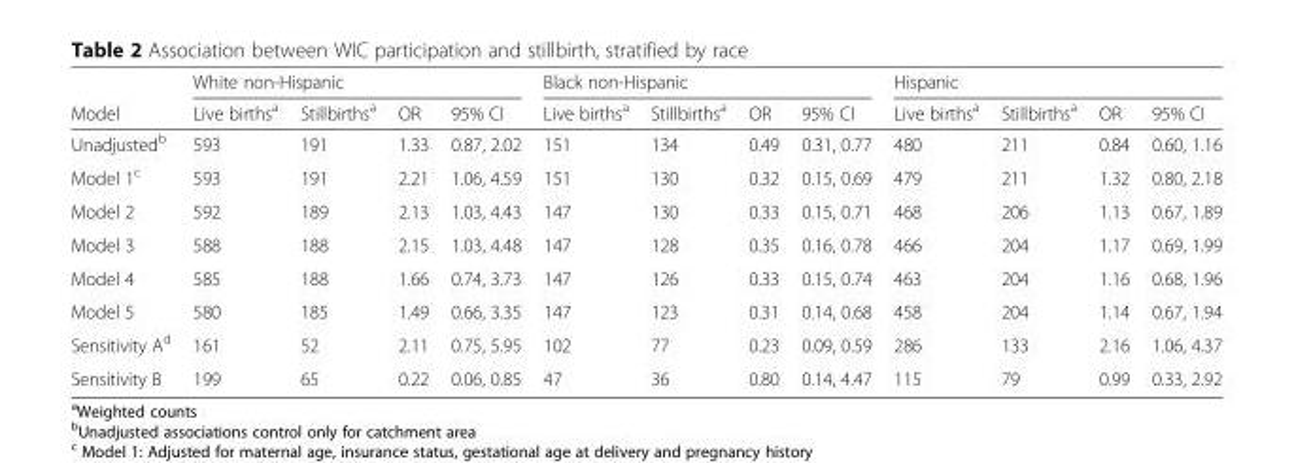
<table><thead><tr><td rowspan="2">Model</td><td colspan="4">White non-Hispanic</td><td colspan="4">Black non-Hispanic</td><td colspan="4">Hispanic</td></tr><tr><td>Live births<sup>a</sup></td><td>Stillbirths<sup>a</sup></td><td>OR</td><td>95% CI</td><td>Live births<sup>a</sup></td><td>Stillbirths<sup>a</sup></td><td>OR</td><td>95% CI</td><td>Live births<sup>a</sup></td><td>Stillbirths<sup>a</sup></td><td>OR</td><td>95% CI</td></tr></thead><tbody><tr><td>Unadjusted<sup>b</sup></td><td>593</td><td>191</td><td>1.33</td><td>0.87, 2.02</td><td>151</td><td>134</td><td>0.49</td><td>0.31, 0.77</td><td>480</td><td>211</td><td>0.84</td><td>0.60, 1.16</td></tr><tr><td>Model 1<sup>c</sup></td><td>593</td><td>191</td><td>2.21</td><td>1.06, 4.59</td><td>151</td><td>130</td><td>0.32</td><td>0.15, 0.69</td><td>479</td><td>211</td><td>1.32</td><td>0.80, 2.18</td></tr><tr><td>Model 2</td><td>592</td><td>189</td><td>2.13</td><td>1.03, 4.43</td><td>147</td><td>130</td><td>0.33</td><td>0.15, 0.71</td><td>468</td><td>206</td><td>1.13</td><td>0.67, 1.89</td></tr><tr><td>Model 3</td><td>588</td><td>188</td><td>2.15</td><td>1.03, 4.48</td><td>147</td><td>128</td><td>0.35</td><td>0.16, 0.78</td><td>466</td><td>204</td><td>1.17</td><td>0.69, 1.99</td></tr><tr><td>Model 4</td><td>585</td><td>188</td><td>1.66</td><td>0.74, 3.73</td><td>147</td><td>126</td><td>0.33</td><td>0.15, 0.74</td><td>463</td><td>204</td><td>1.16</td><td>0.68, 1.96</td></tr><tr><td>Model 5</td><td>580</td><td>185</td><td>1.49</td><td>0.66, 3.35</td><td>147</td><td>123</td><td>0.31</td><td>0.14, 0.68</td><td>458</td><td>204</td><td>1.14</td><td>0.67, 1.94</td></tr><tr><td>Sensitivity A<sup>d</sup></td><td>161</td><td>52</td><td>2.11</td><td>0.75, 5.95</td><td>102</td><td>77</td><td>0.23</td><td>0.09, 0.59</td><td>286</td><td>133</td><td>2.16</td><td>1.06, 4.37</td></tr><tr><td>Sensitivity B</td><td>199</td><td>65</td><td>0.22</td><td>0.06, 0.85</td><td>47</td><td>36</td><td>0.80</td><td>0.14, 4.47</td><td>115</td><td>79</td><td>0.99</td><td>0.33, 2.92</td></tr></tbody></table>